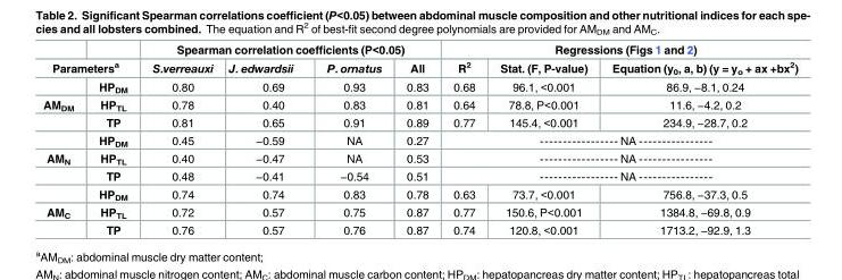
<table><thead><tr><td></td><td></td><td colspan="4">Spearman correlation coefficients (P&lt;0.05)</td><td colspan="3">Regressions (Figs 1 and 2)</td></tr><tr><td colspan="2">Parameters<sup>a</sup></td><td>S.verreauxi</td><td>J. edwardsii</td><td>P. ornatus</td><td>All</td><td>R<sup>2</sup></td><td>Stat. (F, P-value)</td><td>Equation (y<sub>0</sub>, a, b) (y = y<sub>o</sub> + ax +bx<sup>2</sup>)</td></tr></thead><tbody><tr><td></td><td>HP<sub>DM</sub></td><td>0.80</td><td>0.69</td><td>0.93</td><td>0.83</td><td>0.68</td><td>96.1, &lt;0.001</td><td>86.9, −8.1, 0.24</td></tr><tr><td rowspan="3">AM<sub>DM</sub></td><td>HP<sub>TL</sub></td><td>0.78</td><td>0.40</td><td>0.83</td><td>0.81</td><td>0.64</td><td>78.8, P&lt;0.001</td><td>11.6, −4.2, 0.2</td></tr><tr><td>TP</td><td>0.81</td><td>0.65</td><td>0.91</td><td>0.89</td><td>0.77</td><td>145.4, &lt;0.001</td><td>234.9, −28.7, 0.2</td></tr><tr><td>HP<sub>DM</sub></td><td>0.45</td><td>−0.59</td><td>NA</td><td>0.27</td><td colspan="3">----------------- NA ----------------</td></tr><tr><td rowspan="3">AM<sub>N</sub></td><td>HP<sub>TL</sub></td><td>0.40</td><td>−0.47</td><td>NA</td><td>0.53</td><td colspan="3">----------------- NA ----------------</td></tr><tr><td>TP</td><td>0.48</td><td>−0.41</td><td>−0.54</td><td>0.51</td><td colspan="3">----------------- NA ----------------</td></tr><tr><td>HP<sub>DM</sub></td><td>0.74</td><td>0.74</td><td>0.83</td><td>0.78</td><td>0.63</td><td>73.7, &lt;0.001</td><td>756.8, −37.3, 0.5</td></tr><tr><td rowspan="2">AM<sub>C</sub></td><td>HP<sub>TL</sub></td><td>0.72</td><td>0.57</td><td>0.75</td><td>0.87</td><td>0.77</td><td>150.6, P&lt;0.001</td><td>1384.8, −69.8, 0.9</td></tr><tr><td>TP</td><td>0.76</td><td>0.57</td><td>0.76</td><td>0.87</td><td>0.74</td><td>120.8, &lt;0.001</td><td>1713.2, −92.9, 1.3</td></tr></tbody></table>